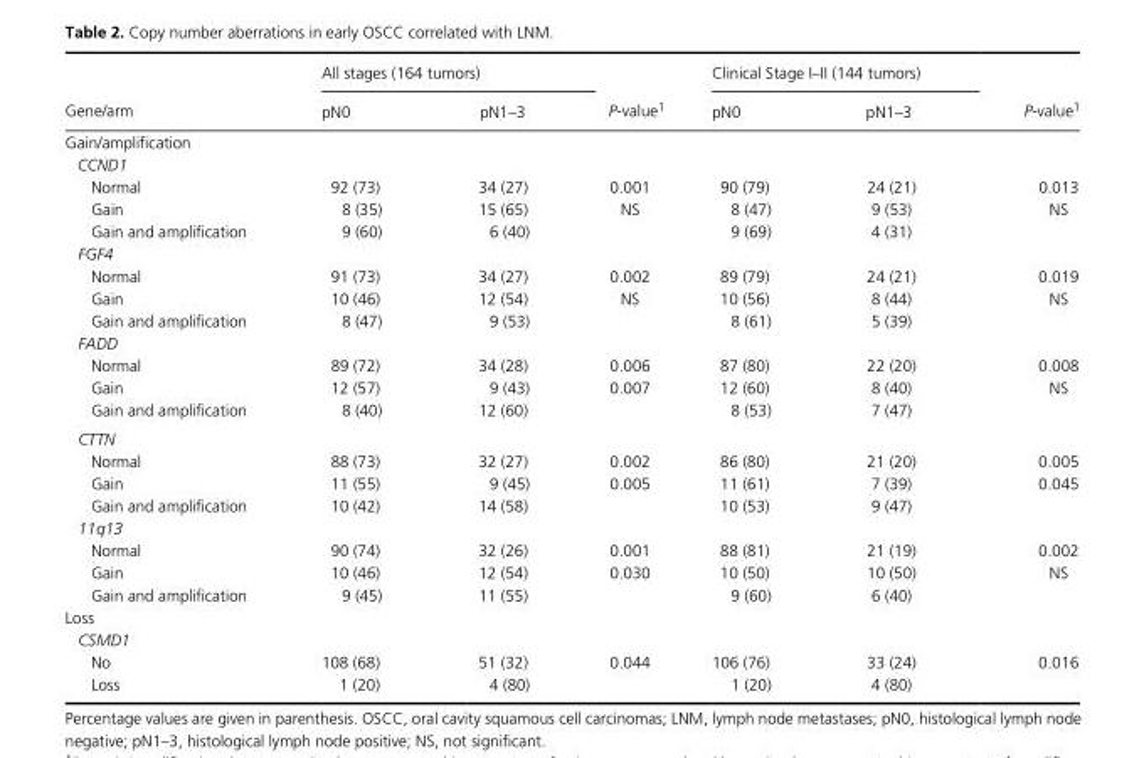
<table><thead><tr><td rowspan="2">Gene/arm</td><td colspan="2">All stages (164 tumors)</td><td rowspan="2">P- value<sup>1</sup></td><td colspan="2">Clinical Stage I–II (144 tumors)</td><td rowspan="2">P- value<sup>1</sup></td></tr><tr><td>pN0</td><td>pN1–3</td><td>pN0</td><td>pN1–3</td></tr></thead><tbody><tr><td colspan="7">Gain/amplification</td></tr><tr><td colspan="7">CCND1</td></tr><tr><td>Normal</td><td>92 (73)</td><td>34 (27)</td><td>0.001</td><td>90 (79)</td><td>24 (21)</td><td>0.013</td></tr><tr><td>Gain</td><td>8 (35)</td><td>15 (65)</td><td>NS</td><td>8 (47)</td><td>9 (53)</td><td>NS</td></tr><tr><td>Gain and amplification</td><td>9 (60)</td><td>6 (40)</td><td></td><td>9 (69)</td><td>4 (31)</td><td></td></tr><tr><td colspan="7">FGF4</td></tr><tr><td>Normal</td><td>91 (73)</td><td>34 (27)</td><td>0.002</td><td>89 (79)</td><td>24 (21)</td><td>0.019</td></tr><tr><td>Gain</td><td>10 (46)</td><td>12 (54)</td><td>NS</td><td>10 (56)</td><td>8 (44)</td><td>NS</td></tr><tr><td>Gain and amplification</td><td>8 (47)</td><td>9 (53)</td><td></td><td>8 (61)</td><td>5 (39)</td><td></td></tr><tr><td colspan="7">FADD</td></tr><tr><td>Normal</td><td>89 (72)</td><td>34 (28)</td><td>0.006</td><td>87 (80)</td><td>22 (20)</td><td>0.008</td></tr><tr><td>Gain</td><td>12 (57)</td><td>9 (43)</td><td>0.007</td><td>12 (60)</td><td>8 (40)</td><td>NS</td></tr><tr><td>Gain and amplification</td><td>8 (40)</td><td>12 (60)</td><td></td><td>8 (53)</td><td>7 (47)</td><td></td></tr><tr><td colspan="7">CTTN</td></tr><tr><td>Normal</td><td>88 (73)</td><td>32 (27)</td><td>0.002</td><td>86 (80)</td><td>21 (20)</td><td>0.005</td></tr><tr><td>Gain</td><td>11 (55)</td><td>9 (45)</td><td>0.005</td><td>11 (61)</td><td>7 (39)</td><td>0.045</td></tr><tr><td>Gain and amplification</td><td>10 (42)</td><td>14 (58)</td><td></td><td>10 (53)</td><td>9 (47)</td><td></td></tr><tr><td colspan="7">11q13</td></tr><tr><td>Normal</td><td>90 (74)</td><td>32 (26)</td><td>0.001</td><td>88 (81)</td><td>21 (19)</td><td>0.002</td></tr><tr><td>Gain</td><td>10 (46)</td><td>12 (54)</td><td>0.030</td><td>10 (50)</td><td>10 (50)</td><td>NS</td></tr><tr><td>Gain and amplification</td><td>9 (45)</td><td>11 (55)</td><td></td><td>9 (60)</td><td>6 (40)</td><td></td></tr><tr><td colspan="7">Loss</td></tr><tr><td colspan="7">CSMD1</td></tr><tr><td>No</td><td>108 (68)</td><td>51 (32)</td><td>0.044</td><td>106 (76)</td><td>33 (24)</td><td>0.016</td></tr><tr><td>Loss</td><td>1 (20)</td><td>4 (80)</td><td></td><td>1 (20)</td><td>4 (80)</td><td></td></tr></tbody></table>